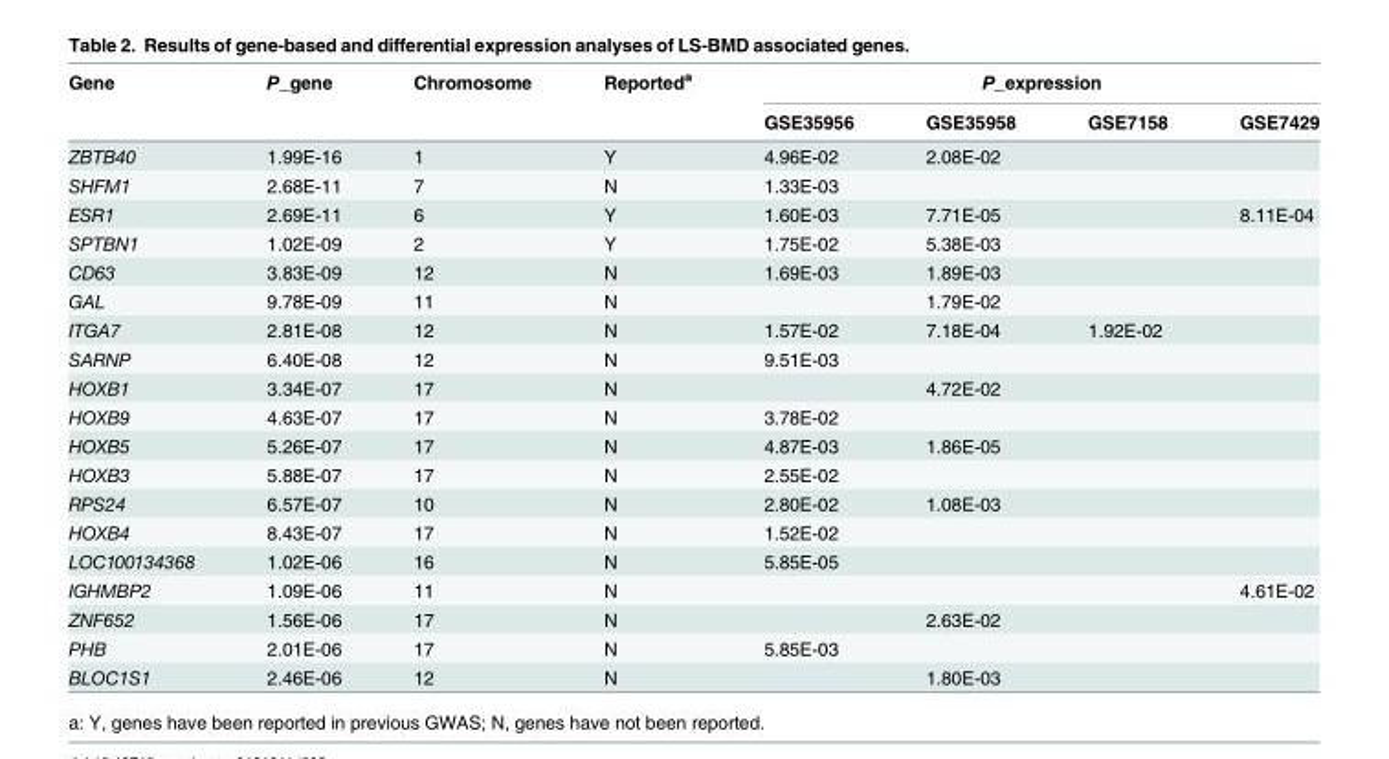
<table><thead><tr><td rowspan="2">Gene</td><td rowspan="2">P_gene</td><td rowspan="2">Chromosome</td><td rowspan="2">Reported<sup>a</sup></td><td colspan="4">P_expression</td></tr><tr><td>GSE35956</td><td>GSE35958</td><td>GSE7158</td><td>GSE7429</td></tr></thead><tbody><tr><td>ZBTB40</td><td>1.99E-16</td><td>1</td><td>Y</td><td>4.96E-02</td><td>2.08E-02</td><td></td><td></td></tr><tr><td>SHFM1</td><td>2.68E-11</td><td>7</td><td>N</td><td>1.33E-03</td><td></td><td></td><td></td></tr><tr><td>ESR1</td><td>2.69E-11</td><td>6</td><td>Y</td><td>1.60E-03</td><td>7.71E-05</td><td></td><td>8.11E-04</td></tr><tr><td>SPTBN1</td><td>1.02E-09</td><td>2</td><td>Y</td><td>1.75E-02</td><td>5.38E-03</td><td></td><td></td></tr><tr><td>CD63</td><td>3.83E-09</td><td>12</td><td>N</td><td>1.69E-03</td><td>1.89E-03</td><td></td><td></td></tr><tr><td>GAL</td><td>9.78E-09</td><td>11</td><td>N</td><td></td><td>1.79E-02</td><td></td><td></td></tr><tr><td>ITGA7</td><td>2.81E-08</td><td>12</td><td>N</td><td>1.57E-02</td><td>7.18E-04</td><td>1.92E-02</td><td></td></tr><tr><td>SARNP</td><td>6.40E-08</td><td>12</td><td>N</td><td>9.51E-03</td><td></td><td></td><td></td></tr><tr><td>HOXB1</td><td>3.34E-07</td><td>17</td><td>N</td><td></td><td>4.72E-02</td><td></td><td></td></tr><tr><td>HOXB9</td><td>4.63E-07</td><td>17</td><td>N</td><td>3.78E-02</td><td></td><td></td><td></td></tr><tr><td>HOXB5</td><td>5.26E-07</td><td>17</td><td>N</td><td>4.87E-03</td><td>1.86E-05</td><td></td><td></td></tr><tr><td>HOXB3</td><td>5.88E-07</td><td>17</td><td>N</td><td>2.55E-02</td><td></td><td></td><td></td></tr><tr><td>RPS24</td><td>6.57E-07</td><td>10</td><td>N</td><td>2.80E-02</td><td>1.08E-03</td><td></td><td></td></tr><tr><td>HOXB4</td><td>8.43E-07</td><td>17</td><td>N</td><td>1.52E-02</td><td></td><td></td><td></td></tr><tr><td>LOC100134368</td><td>1.02E-06</td><td>16</td><td>N</td><td>5.85E-05</td><td></td><td></td><td></td></tr><tr><td>IGHMBP2</td><td>1.09E-06</td><td>11</td><td>N</td><td></td><td></td><td></td><td>4.61E-02</td></tr><tr><td>ZNF652</td><td>1.56E-06</td><td>17</td><td>N</td><td></td><td>2.63E-02</td><td></td><td></td></tr><tr><td>PHB</td><td>2.01E-06</td><td>17</td><td>N</td><td>5.85E-03</td><td></td><td></td><td></td></tr><tr><td>BLOC1S1</td><td>2.46E-06</td><td>12</td><td>N</td><td></td><td>1.80E-03</td><td></td><td></td></tr></tbody></table>